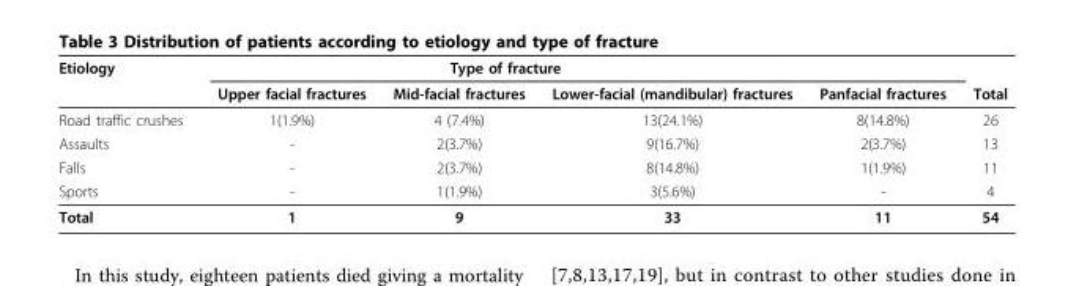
<table><thead><tr><td rowspan="2">Etiology</td><td colspan="3">Type of fracture</td><td rowspan="2">Panfacial fractures</td><td rowspan="2">Total</td></tr><tr><td>Upper facial fractures</td><td>Mid-facial fractures</td><td>Lower-facial (mandibular) fractures</td></tr></thead><tbody><tr><td>Road traffic crushes</td><td>1(1.9%)</td><td>4 (7.4%)</td><td>13(24.1%)</td><td>8(14.8%)</td><td>26</td></tr><tr><td>Assaults</td><td>-</td><td>2(3.7%)</td><td>9(16.7%)</td><td>2(3.7%)</td><td>13</td></tr><tr><td>Falls</td><td>-</td><td>2(3.7%)</td><td>8(14.8%)</td><td>1(1.9%)</td><td>11</td></tr><tr><td>Sports</td><td>-</td><td>1(1.9%)</td><td>3(5.6%)</td><td>-</td><td>4</td></tr><tr><td>Total</td><td>1</td><td>9</td><td>33</td><td>11</td><td>54</td></tr></tbody></table>